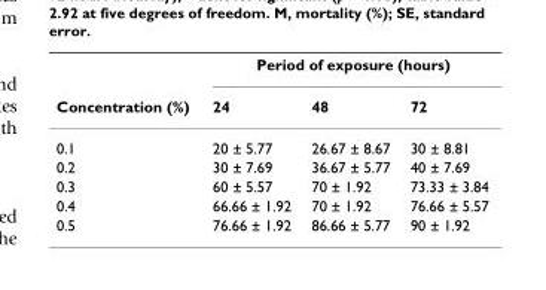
<table><thead><tr><td rowspan="2">Concentration (%)</td><td colspan="3">Period of exposure (hours)</td></tr><tr><td>24</td><td>48</td><td>72</td></tr></thead><tbody><tr><td>0.1</td><td>20 ± 5.77</td><td>26.67 ± 8.67</td><td>30 ± 8.81</td></tr><tr><td>0.2</td><td>30 ± 7.69</td><td>36.67 ± 5.77</td><td>40 ± 7.69</td></tr><tr><td>0.3</td><td>60 ± 5.57</td><td>70 ± 1.92</td><td>73.33 ± 3.84</td></tr><tr><td>0.4</td><td>66.66 ± 1.92</td><td>70 ± 1.92</td><td>76.66 ± 5.57</td></tr><tr><td>0.5</td><td>76.66 ± 1.92</td><td>86.66 ± 5.77</td><td>90 ± 1.92</td></tr></tbody></table>